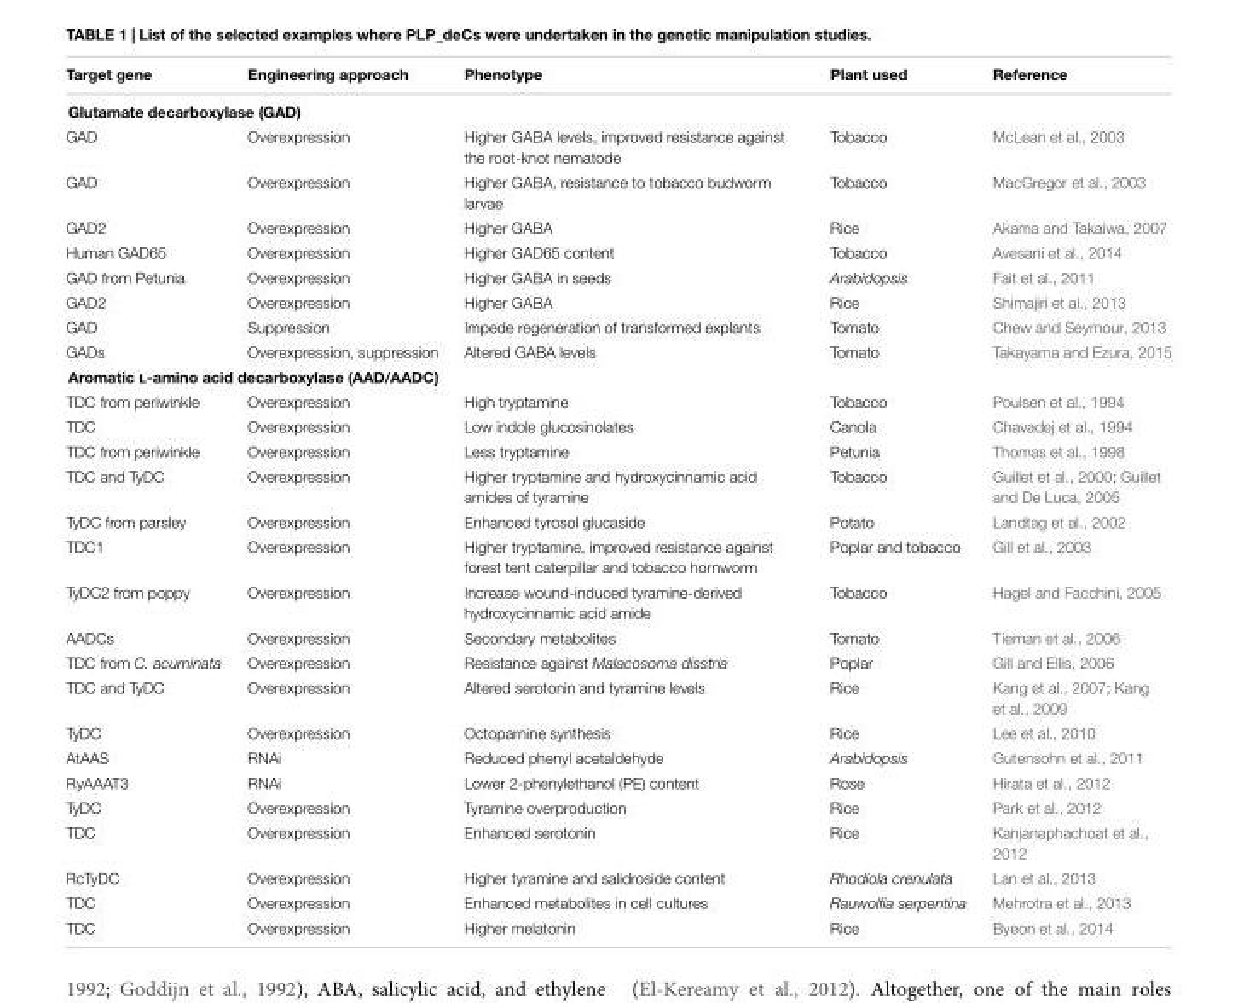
<table><thead><tr><td>Target gene</td><td>Engineering approach</td><td>Phenotype</td><td>Plant used</td><td>Reference</td></tr></thead><tbody><tr><td colspan="5">Glutamate decarboxylase (GAD)</td></tr><tr><td>GAD</td><td>Overexpression</td><td>Higher GABA levels, improved resistance against the root-knot nematode</td><td>Tobacco</td><td>McLean et al., 2003</td></tr><tr><td>GAD</td><td>Overexpression</td><td>Higher GABA, resistance to tobacco budworm larvae</td><td>Tobacco</td><td>MacGregor et al., 2003</td></tr><tr><td>GAD2</td><td>Overexpression</td><td>Higher GABA</td><td>Rice</td><td>Akama and Takaiwa, 2007</td></tr><tr><td>Human GAD65</td><td>Overexpression</td><td>Higher GAD65 content</td><td>Tobacco</td><td>Avesani et al., 2014</td></tr><tr><td>GAD from Petunia</td><td>Overexpression</td><td>Higher GABA in seeds</td><td>Arabidopsis</td><td>Fait et al., 2011</td></tr><tr><td>GAD2</td><td>Overexpression</td><td>Higher GABA</td><td>Rice</td><td>Shimajiri et al., 2013</td></tr><tr><td>GAD</td><td>Suppression</td><td>Impede regeneration of transformed explants</td><td>Tomato</td><td>Chew and Seymour, 2013</td></tr><tr><td>GADs</td><td>Overexpression, suppression</td><td>Altered GABA levels</td><td>Tomato</td><td>Takayama and Ezura, 2015</td></tr><tr><td colspan="5">Aromatic L-amino acid decarboxylase (AAD/AADC)</td></tr><tr><td>TDC from periwinkle</td><td>Overexpression</td><td>High tryptamine</td><td>Tobacco</td><td>Poulsen et al., 1994</td></tr><tr><td>TDC</td><td>Overexpression</td><td>Low indole glucosinolates</td><td>Canola</td><td>Chavadej et al., 1994</td></tr><tr><td>TDC from periwinkle</td><td>Overexpression</td><td>Less tryptamine</td><td>Petunia</td><td>Thomas et al., 1998</td></tr><tr><td>TDC and TyDC</td><td>Overexpression</td><td>Higher tryptamine and hydroxycinnamic acid amides of tyramine</td><td>Tobacco</td><td>Guillet et al., 2000; Guillet and De Luca, 2005</td></tr><tr><td>TyDC from parsley</td><td>Overexpression</td><td>Enhanced tyrosol glucaside</td><td>Potato</td><td>Landtag et al., 2002</td></tr><tr><td>TDC1</td><td>Overexpression</td><td>Higher tryptamine, improved resistance against forest tent caterpillar and tobacco hornworm</td><td>Poplar and tobacco</td><td>Gill et al., 2003</td></tr><tr><td>TyDC2 from poppy</td><td>Overexpression</td><td>Increase wound-induced tyramine-derived hydroxycinnamic acid amide</td><td>Tobacco</td><td>Hagel and Facchini, 2005</td></tr><tr><td>AADCs</td><td>Overexpression</td><td>Secondary metabolites</td><td>Tomato</td><td>Tieman et al., 2006</td></tr><tr><td>TDC from C. acuminata</td><td>Overexpression</td><td>Resistance against Malacosoma disstria</td><td>Poplar</td><td>Gill and Ellis, 2006</td></tr><tr><td>TDC and TyDC</td><td>Overexpression</td><td>Altered serotonin and tyramine levels</td><td>Rice</td><td>Kang et al., 2007; Kang et al., 2009</td></tr><tr><td>TyDC</td><td>Overexpression</td><td>Octoparnine synthesis</td><td>Rice</td><td>Lee et al., 2010</td></tr><tr><td>AtAAS</td><td>RNAi</td><td>Reduced phenyl acetaldehyde</td><td>Arabidopsis</td><td>Gutensohn et al., 2011</td></tr><tr><td>RyAAAT3</td><td>RNAi</td><td>Lower 2-phenylethanol (PE) content</td><td>Rose</td><td>Hirata et al., 2012</td></tr><tr><td>TyDC</td><td>Overexpression</td><td>Tyramine overproduction</td><td>Rice</td><td>Park et al., 2012</td></tr><tr><td>TDC</td><td>Overexpression</td><td>Enhanced serotonin</td><td>Rice</td><td>Kanjanaphachoat et al., 2012</td></tr><tr><td>RcTyDC</td><td>Overexpression</td><td>Higher tyramine and salidroside content</td><td>Rhodiola crenulata</td><td>Lan et al., 2013</td></tr><tr><td>TDC</td><td>Overexpression</td><td>Enhanced metabolites in cell cultures</td><td>Rauwolfia serpentina</td><td>Mehrotra et al., 2013</td></tr><tr><td>TDC</td><td>Overexpression</td><td>Higher melatonin</td><td>Rice</td><td>Byeon et al., 2014</td></tr></tbody></table>